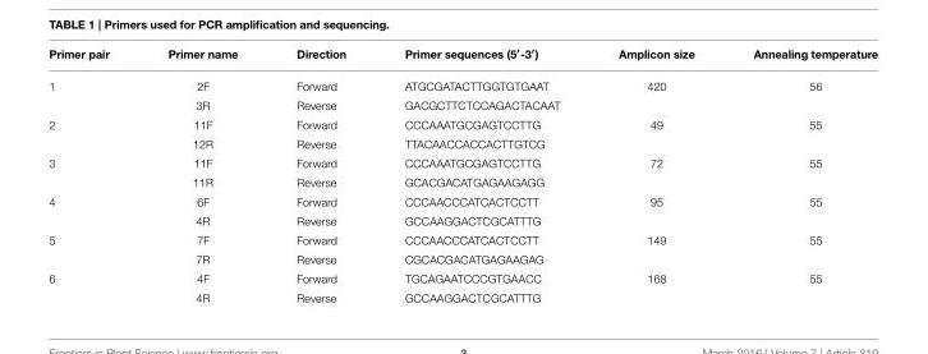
<table><thead><tr><td>Primer pair</td><td>Primer name</td><td>Direction</td><td>Primer sequences (5′-3′)</td><td>Amplicon size</td><td>Annealing temperature</td></tr></thead><tbody><tr><td rowspan="2">1</td><td>2F</td><td>Forward</td><td>ATGCGATACTTGGTGTGAAT</td><td>420</td><td>56</td></tr><tr><td>3R</td><td>Reverse</td><td>GACGCTTCTCCAGACTACAAT</td><td></td><td></td></tr><tr><td rowspan="2">2</td><td>11F</td><td>Forward</td><td>CCCAAATGCGAGTCCTTG</td><td>49</td><td>55</td></tr><tr><td>12R</td><td>Reverse</td><td>TTACAACCACCACTTGTCG</td><td></td><td></td></tr><tr><td rowspan="2">3</td><td>11F</td><td>Forward</td><td>CCCAAATGCGAGTCCTTG</td><td>72</td><td>55</td></tr><tr><td>11R</td><td>Reverse</td><td>GCACGACATGAGAAGAGG</td><td></td><td></td></tr><tr><td rowspan="2">4</td><td>6F</td><td>Forward</td><td>CCCAACCCATCACTCCTT</td><td>95</td><td>55</td></tr><tr><td>4R</td><td>Reverse</td><td>GCCAAGGACTCGCATTTG</td><td></td><td></td></tr><tr><td rowspan="2">5</td><td>7F</td><td>Forward</td><td>CCCAACCCATCACTCCTT</td><td>149</td><td>55</td></tr><tr><td>7R</td><td>Reverse</td><td>CGCACGACATGAGAAGAG</td><td></td><td></td></tr><tr><td rowspan="2">6</td><td>4F</td><td>Forward</td><td>TGCAGAATCCCGTGAACC</td><td>168</td><td>55</td></tr><tr><td>4R</td><td>Reverse</td><td>GCCAAGGACTCGCATTTG</td><td></td><td></td></tr></tbody></table>